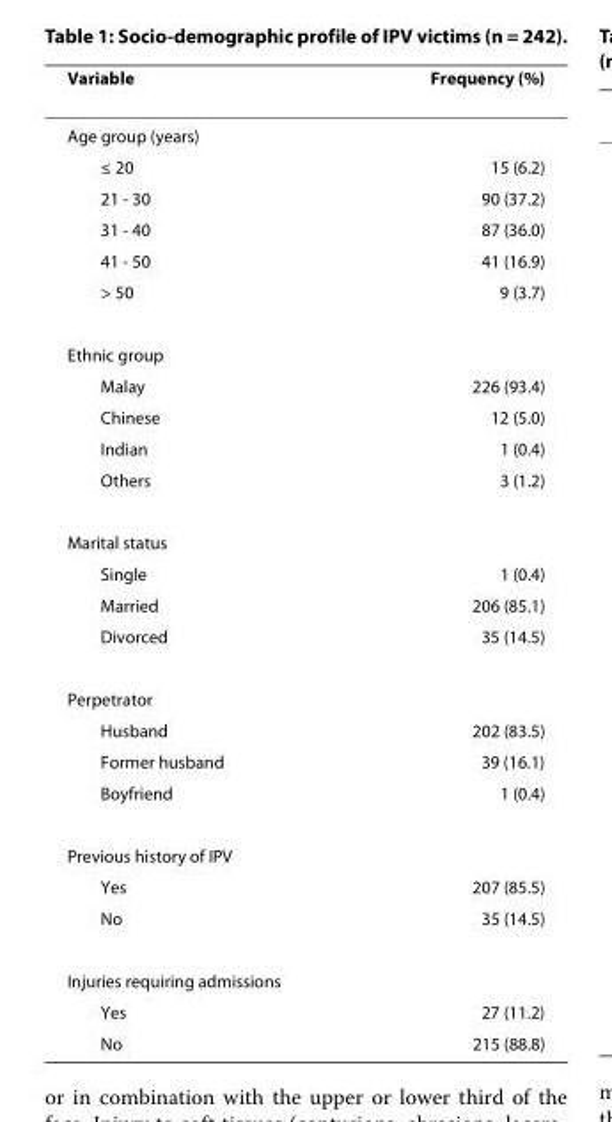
<table><thead><tr><td>Variable</td><td>Frequency (%)</td></tr></thead><tbody><tr><td colspan="2">Age group (years)</td></tr><tr><td>≤ 20</td><td>15 (6.2)</td></tr><tr><td>21 - 30</td><td>90 (37.2)</td></tr><tr><td>31 - 40</td><td>87 (36.0)</td></tr><tr><td>41 - 50</td><td>41 (16.9)</td></tr><tr><td>&gt; 50</td><td>9 (3.7)</td></tr><tr><td colspan="2">Ethnic group</td></tr><tr><td>Malay</td><td>226 (93.4)</td></tr><tr><td>Chinese</td><td>12 (5.0)</td></tr><tr><td>Indian</td><td>1 (0.4)</td></tr><tr><td>Others</td><td>3 (1.2)</td></tr><tr><td colspan="2">Marital status</td></tr><tr><td>Single</td><td>1 (0.4)</td></tr><tr><td>Married</td><td>206 (85.1)</td></tr><tr><td>Divorced</td><td>35 (14.5)</td></tr><tr><td colspan="2">Perpetrator</td></tr><tr><td>Husband</td><td>202 (83.5)</td></tr><tr><td>Former husband</td><td>39 (16.1)</td></tr><tr><td>Boyfriend</td><td>1 (0.4)</td></tr><tr><td colspan="2">Previous history of IPV</td></tr><tr><td>Yes</td><td>207 (85.5)</td></tr><tr><td>No</td><td>35 (14.5)</td></tr><tr><td colspan="2">Injuries requiring admissions</td></tr><tr><td>Yes</td><td>27 (11.2)</td></tr><tr><td>No</td><td>215 (88.8)</td></tr></tbody></table>